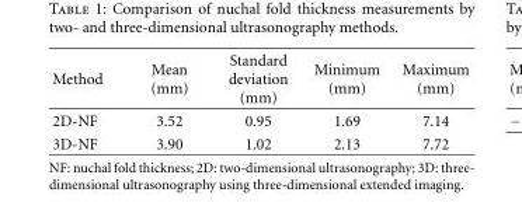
<table><thead><tr><td>Method</td><td>Mean (mm)</td><td>Standard deviation (mm)</td><td>Minimum (mm)</td><td>Maximum (mm)</td></tr></thead><tbody><tr><td>2D-NF</td><td>3.52</td><td>0.95</td><td>1.69</td><td>7.14</td></tr><tr><td>3D-NF</td><td>3.90</td><td>1.02</td><td>2.13</td><td>7.72</td></tr></tbody></table>